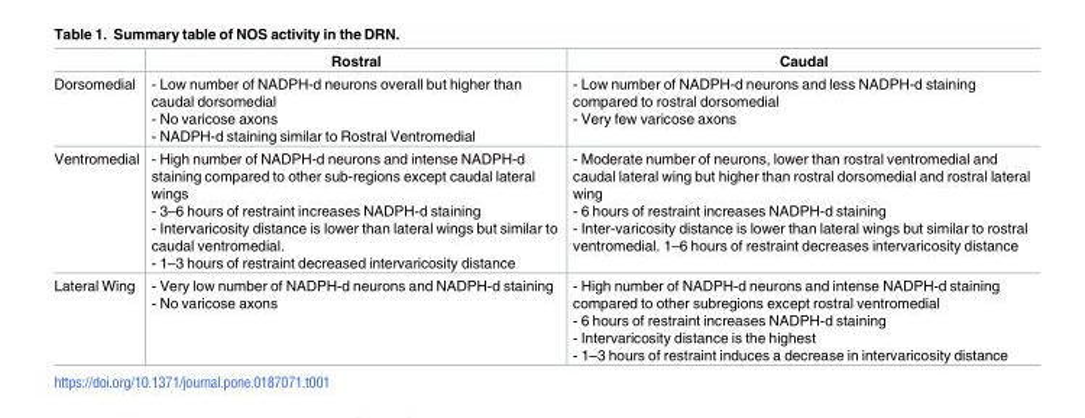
<table><thead><tr><td></td><td>Rostral</td><td>Caudal</td></tr></thead><tbody><tr><td>Dorsomedial</td><td>- Low number of NADPH-d neurons overall but higher than caudal dorsomedial - No varicose axons - NADPH-d staining similar to Rostral Ventromedial</td><td>- Low number of NADPH-d neurons and less NADPH-d staining compared to rostral dorsomedial - Very few varicose axons</td></tr><tr><td>Ventromedial</td><td>- High number of NADPH-d neurons and intense NADPH-d staining compared to other sub-regions except caudal lateral wings - 3–6 hours of restraint increases NADPH-d staining - Intervaricosity distance is lower than lateral wings but similar to caudal ventromedial. - 1–3 hours of restraint decreased intervaricosity distance</td><td>- Moderate number of neurons, lower than rostral ventromedial and caudal lateral wing but higher than rostral dorsomedial and rostral lateral wing - 6 hours of restraint increases NADPH-d staining - Inter-varicosity distance is lower than lateral wings but similar to rostral ventromedial. 1–6 hours of restraint decreases intervaricosity distance</td></tr><tr><td>Lateral Wing</td><td>- Very low number of NADPH-d neurons and NADPH-d staining - No varicose axons</td><td>- High number of NADPH-d neurons and intense NADPH-d staining compared to other subregions except rostral ventromedial - 6 hours of restraint increases NADPH-d staining - Intervaricosity distance is the highest - 1–3 hours of restraint induces a decrease in intervaricosity distance</td></tr></tbody></table>